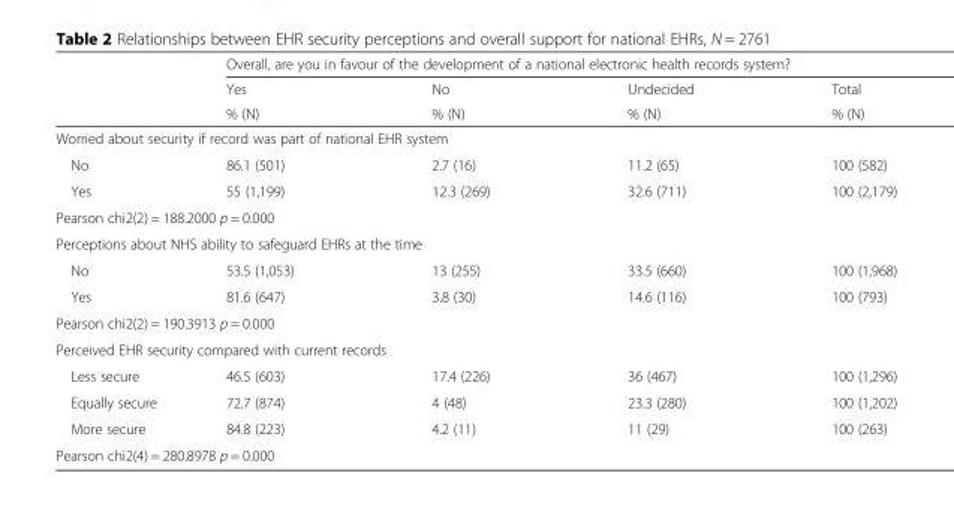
<table><thead><tr><td rowspan="3"></td><td colspan="4">Overall, are you in favour of the development of a national electronic health records system?</td></tr><tr><td rowspan="2">Yes % (N)</td><td rowspan="2">No % (N)</td><td rowspan="2">Undecided % (N)</td><td rowspan="2">Total % (N)</td></tr><tr></tr></thead><tbody><tr><td colspan="5">Worried about security if record was part of national EHR system</td></tr><tr><td>No</td><td>86.1 (501)</td><td>2.7 (16)</td><td>11.2 (65)</td><td>100 (582)</td></tr><tr><td>Yes</td><td>55 (1,199)</td><td>12.3 (269)</td><td>32.6 (711)</td><td>100 (2,179)</td></tr><tr><td colspan="5">Pearson chi2(2) = 188.2000 p = 0.000</td></tr><tr><td colspan="5">Perceptions about NHS ability to safeguard EHRs at the time</td></tr><tr><td>No</td><td>53.5 (1,053)</td><td>13 (255)</td><td>33.5 (660)</td><td>100 (1,968)</td></tr><tr><td>Yes</td><td>81.6 (647)</td><td>3.8 (30)</td><td>14.6 (116)</td><td>100 (793)</td></tr><tr><td colspan="5">Pearson chi2(2) = 190.3913 p = 0.000</td></tr><tr><td colspan="5">Perceived EHR security compared with current records</td></tr><tr><td>Less secure</td><td>46.5 (603)</td><td>17.4 (226)</td><td>36 (467)</td><td>100 (1,296)</td></tr><tr><td>Equally secure</td><td>72.7 (874)</td><td>4 (48)</td><td>23.3 (280)</td><td>100 (1,202)</td></tr><tr><td>More secure</td><td>84.8 (223)</td><td>4.2 (11)</td><td>11 (29)</td><td>100 (263)</td></tr><tr><td colspan="5">Pearson chi2(4) = 280.8978 p = 0.000</td></tr></tbody></table>